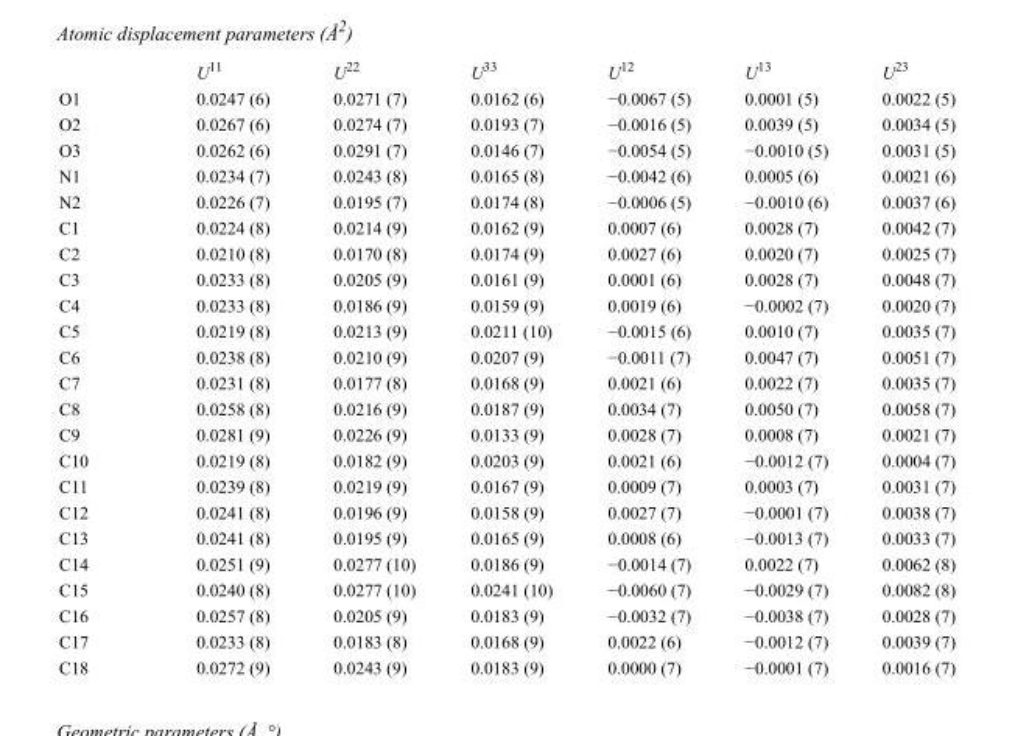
<table><thead><tr><td></td><td>U<sup>11</sup></td><td>U<sup>22</sup></td><td>U<sup>33</sup></td><td>U<sup>12</sup></td><td>U<sup>13</sup></td><td>U<sup>23</sup></td></tr></thead><tbody><tr><td>O1</td><td>0.0247 (6)</td><td>0.0271 (7)</td><td>0.0162 (6)</td><td>−0.0067 (5)</td><td>0.0001 (5)</td><td>0.0022 (5)</td></tr><tr><td>O2</td><td>0.0267 (6)</td><td>0.0274 (7)</td><td>0.0193 (7)</td><td>−0.0016 (5)</td><td>0.0039 (5)</td><td>0.0034 (5)</td></tr><tr><td>O3</td><td>0.0262 (6)</td><td>0.0291 (7)</td><td>0.0146 (7)</td><td>−0.0054 (5)</td><td>−0.0010 (5)</td><td>0.0031 (5)</td></tr><tr><td>N1</td><td>0.0234 (7)</td><td>0.0243 (8)</td><td>0.0165 (8)</td><td>−0.0042 (6)</td><td>0.0005 (6)</td><td>0.0021 (6)</td></tr><tr><td>N2</td><td>0.0226 (7)</td><td>0.0195 (7)</td><td>0.0174 (8)</td><td>−0.0006 (5)</td><td>−0.0010 (6)</td><td>0.0037 (6)</td></tr><tr><td>C1</td><td>0.0224 (8)</td><td>0.0214 (9)</td><td>0.0162 (9)</td><td>0.0007 (6)</td><td>0.0028 (7)</td><td>0.0042 (7)</td></tr><tr><td>C2</td><td>0.0210 (8)</td><td>0.0170 (8)</td><td>0.0174 (9)</td><td>0.0027 (6)</td><td>0.0020 (7)</td><td>0.0025 (7)</td></tr><tr><td>C3</td><td>0.0233 (8)</td><td>0.0205 (9)</td><td>0.0161 (9)</td><td>0.0001 (6)</td><td>0.0028 (7)</td><td>0.0048 (7)</td></tr><tr><td>C4</td><td>0.0233 (8)</td><td>0.0186 (9)</td><td>0.0159 (9)</td><td>0.0019 (6)</td><td>−0.0002 (7)</td><td>0.0020 (7)</td></tr><tr><td>C5</td><td>0.0219 (8)</td><td>0.0213 (9)</td><td>0.0211 (10)</td><td>−0.0015 (6)</td><td>0.0010 (7)</td><td>0.0035 (7)</td></tr><tr><td>C6</td><td>0.0238 (8)</td><td>0.0210 (9)</td><td>0.0207 (9)</td><td>−0.0011 (7)</td><td>0.0047 (7)</td><td>0.0051 (7)</td></tr><tr><td>C7</td><td>0.0231 (8)</td><td>0.0177 (8)</td><td>0.0168 (9)</td><td>0.0021 (6)</td><td>0.0022 (7)</td><td>0.0035 (7)</td></tr><tr><td>C8</td><td>0.0258 (8)</td><td>0.0216 (9)</td><td>0.0187 (9)</td><td>0.0034 (7)</td><td>0.0050 (7)</td><td>0.0058 (7)</td></tr><tr><td>C9</td><td>0.0281 (9)</td><td>0.0226 (9)</td><td>0.0133 (9)</td><td>0.0028 (7)</td><td>0.0008 (7)</td><td>0.0021 (7)</td></tr><tr><td>C10</td><td>0.0219 (8)</td><td>0.0182 (9)</td><td>0.0203 (9)</td><td>0.0021 (6)</td><td>−0.0012 (7)</td><td>0.0004 (7)</td></tr><tr><td>C11</td><td>0.0239 (8)</td><td>0.0219 (9)</td><td>0.0167 (9)</td><td>0.0009 (7)</td><td>0.0003 (7)</td><td>0.0031 (7)</td></tr><tr><td>C12</td><td>0.0241 (8)</td><td>0.0196 (9)</td><td>0.0158 (9)</td><td>0.0027 (7)</td><td>−0.0001 (7)</td><td>0.0038 (7)</td></tr><tr><td>C13</td><td>0.0241 (8)</td><td>0.0195 (9)</td><td>0.0165 (9)</td><td>0.0008 (6)</td><td>−0.0013 (7)</td><td>0.0033 (7)</td></tr><tr><td>C14</td><td>0.0251 (9)</td><td>0.0277 (10)</td><td>0.0186 (9)</td><td>−0.0014 (7)</td><td>0.0022 (7)</td><td>0.0062 (8)</td></tr><tr><td>C15</td><td>0.0240 (8)</td><td>0.0277 (10)</td><td>0.0241 (10)</td><td>−0.0060 (7)</td><td>−0.0029 (7)</td><td>0.0082 (8)</td></tr><tr><td>C16</td><td>0.0257 (8)</td><td>0.0205 (9)</td><td>0.0183 (9)</td><td>−0.0032 (7)</td><td>−0.0038 (7)</td><td>0.0028 (7)</td></tr><tr><td>C17</td><td>0.0233 (8)</td><td>0.0183 (8)</td><td>0.0168 (9)</td><td>0.0022 (6)</td><td>−0.0012 (7)</td><td>0.0039 (7)</td></tr><tr><td>C18</td><td>0.0272 (9)</td><td>0.0243 (9)</td><td>0.0183 (9)</td><td>0.0000 (7)</td><td>−0.0001 (7)</td><td>0.0016 (7)</td></tr></tbody></table>